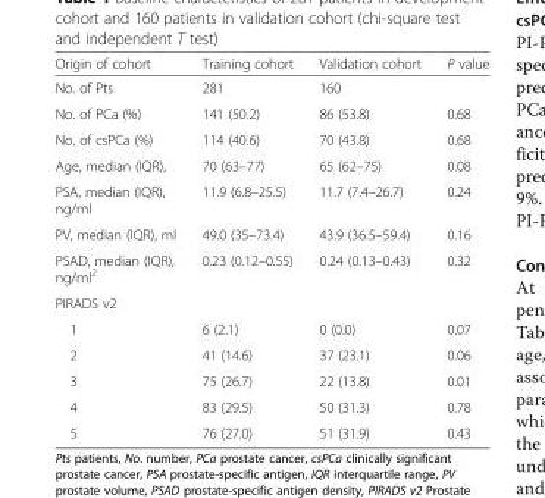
<table><thead><tr><td>Origin of cohort</td><td>Training cohort</td><td>Validation cohort</td><td>P value</td></tr></thead><tbody><tr><td>No. of Pts</td><td>281</td><td>160</td><td></td></tr><tr><td>No. of PCa (%)</td><td>141 (50.2)</td><td>86 (53.8)</td><td>0.68</td></tr><tr><td>No. of csPCa (%)</td><td>114 (40.6)</td><td>70 (43.8)</td><td>0.68</td></tr><tr><td>Age, median (IQR),</td><td>70 (63–77)</td><td>65 (62–75)</td><td>0.08</td></tr><tr><td>PSA, median (IQR), ng/ml</td><td>11.9 (6.8–25.5)</td><td>11.7 (7.4–26.7)</td><td>0.24</td></tr><tr><td>PV, median (IQR), ml</td><td>49.0 (35–73.4)</td><td>43.9 (36.5–59.4)</td><td>0.16</td></tr><tr><td>PSAD, median (IQR), ng/ml<sup>2</sup></td><td>0.23 (0.12–0.55)</td><td>0.24 (0.13–0.43)</td><td>0.32</td></tr><tr><td colspan="4">PIRADS v2</td></tr><tr><td>1</td><td>6 (2.1)</td><td>0 (0.0)</td><td>0.07</td></tr><tr><td>2</td><td>41 (14.6)</td><td>37 (23.1)</td><td>0.06</td></tr><tr><td>3</td><td>75 (26.7)</td><td>22 (13.8)</td><td>0.01</td></tr><tr><td>4</td><td>83 (29.5)</td><td>50 (31.3)</td><td>0.78</td></tr><tr><td>5</td><td>76 (27.0)</td><td>51 (31.9)</td><td>0.43</td></tr></tbody></table>